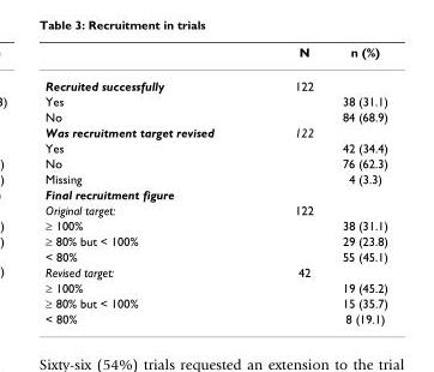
<table><thead><tr><td></td><td>N</td><td>n (%)</td></tr></thead><tbody><tr><td>Recruited successfully</td><td>122</td><td></td></tr><tr><td>Yes</td><td></td><td>38 (31.1)</td></tr><tr><td>No</td><td></td><td>84 (68.9)</td></tr><tr><td>Was recruitment target revised</td><td>122</td><td></td></tr><tr><td>Yes</td><td></td><td>42 (34.4)</td></tr><tr><td>No</td><td></td><td>76 (62.3)</td></tr><tr><td>Missing</td><td></td><td>4 (3.3)</td></tr><tr><td colspan="3">Final recruitment figure</td></tr><tr><td>Original target:</td><td>122</td><td></td></tr><tr><td>≥ 100%</td><td></td><td>38 (31.1)</td></tr><tr><td>≥ 80% but &lt; 100%</td><td></td><td>29 (23.8)</td></tr><tr><td>&lt; 80%</td><td></td><td>55 (45.1)</td></tr><tr><td>Revised target:</td><td>42</td><td></td></tr><tr><td>≥ 100%</td><td></td><td>19 (45.2)</td></tr><tr><td>≥ 80% but &lt; 100%</td><td></td><td>15 (35.7)</td></tr><tr><td>&lt; 80%</td><td></td><td>8 (19.1)</td></tr></tbody></table>